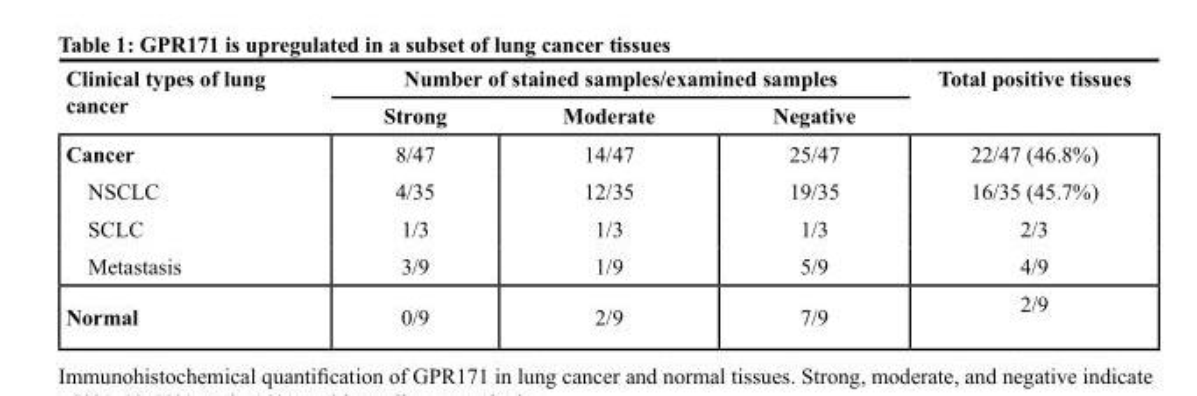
<table><thead><tr><td rowspan="2">Clinical types of lung cancer</td><td colspan="3">Number of stained samples/examined samples</td><td rowspan="2">Total positive tissues</td></tr><tr><td>Strong</td><td>Moderate</td><td>Negative</td></tr></thead><tbody><tr><td>Cancer</td><td>8/47</td><td>14/47</td><td>25/47</td><td>22/47 (46.8%)</td></tr><tr><td>NSCLC</td><td>4/35</td><td>12/35</td><td>19/35</td><td>16/35 (45.7%)</td></tr><tr><td>SCLC</td><td>1/3</td><td>1/3</td><td>1/3</td><td>2/3</td></tr><tr><td>Metastasis</td><td>3/9</td><td>1/9</td><td>5/9</td><td>4/9</td></tr><tr><td>Normal</td><td>0/9</td><td>2/9</td><td>7/9</td><td>2/9</td></tr></tbody></table>